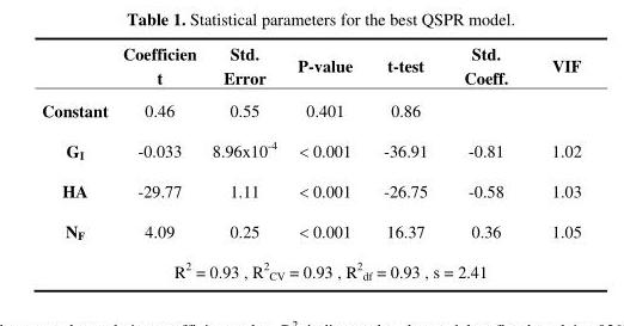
<table><thead><tr><td></td><td>Coefficien t</td><td>Std. Error</td><td>P-value</td><td>t-test</td><td>Std. Coeff.</td><td>VIF</td></tr></thead><tbody><tr><td>Constant</td><td>0.46</td><td>0.55</td><td>0.401</td><td>0.86</td><td></td><td></td></tr><tr><td>G<sub>I</sub></td><td>-0.033</td><td>8.96x10<sup>-4</sup></td><td>&lt; 0.001</td><td>-36.91</td><td>-0.81</td><td>1.02</td></tr><tr><td>HA</td><td>-29.77</td><td>1.11</td><td>&lt; 0.001</td><td>-26.75</td><td>-0.58</td><td>1.03</td></tr><tr><td>N<sub>F</sub></td><td>4.09</td><td>0.25</td><td>&lt; 0.001</td><td>16.37</td><td>0.36</td><td>1.05</td></tr><tr><td colspan="7">R<sup>2</sup> = 0.93 , R<sup>2</sup> <sub>CV</sub> = 0.93 , R<sup>2</sup> <sub>df</sub> = 0.93 , s = 2.41</td></tr></tbody></table>